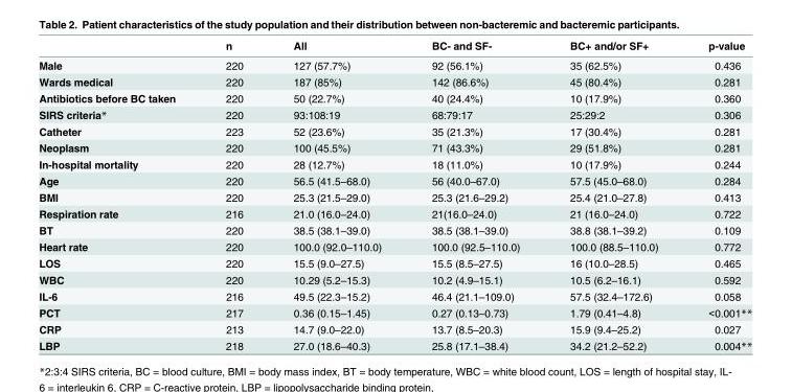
<table><thead><tr><td></td><td>n</td><td>All</td><td>BC- and SF-</td><td>BC+ and/or SF+</td><td>p-value</td></tr></thead><tbody><tr><td>Male</td><td>220</td><td>127 (57.7%)</td><td>92 (56.1%)</td><td>35 (62.5%)</td><td>0.436</td></tr><tr><td>Wards medical</td><td>220</td><td>187 (85%)</td><td>142 (86.6%)</td><td>45 (80.4%)</td><td>0.281</td></tr><tr><td>Antibiotics before BC taken</td><td>220</td><td>50 (22.7%)</td><td>40 (24.4%)</td><td>10 (17.9%)</td><td>0.360</td></tr><tr><td>SIRS criteria*</td><td>220</td><td>93:108:19</td><td>68:79:17</td><td>25:29:2</td><td>0.306</td></tr><tr><td>Catheter</td><td>223</td><td>52 (23.6%)</td><td>35 (21.3%)</td><td>17 (30.4%)</td><td>0.281</td></tr><tr><td>Neoplasm</td><td>220</td><td>100 (45.5%)</td><td>71 (43.3%)</td><td>29 (51.8%)</td><td>0.281</td></tr><tr><td>In-hospital mortality</td><td>220</td><td>28 (12.7%)</td><td>18 (11.0%)</td><td>10 (17.9%)</td><td>0.244</td></tr><tr><td>Age</td><td>220</td><td>56.5 (41.5–68.0)</td><td>56 (40.0–67.0)</td><td>57.5 (45.0–68.0)</td><td>0.284</td></tr><tr><td>BMI</td><td>220</td><td>25.3 (21.5–29.0)</td><td>25.3 (21.6–29.2)</td><td>25.4 (21.0–27.8)</td><td>0.413</td></tr><tr><td>Respiration rate</td><td>216</td><td>21.0 (16.0–24.0)</td><td>21(16.0–24.0)</td><td>21 (16.0–24.0)</td><td>0.722</td></tr><tr><td>BT</td><td>220</td><td>38.5 (38.1–39.0)</td><td>38.5 (38.1–39.0)</td><td>38.8 (38.1–39.2)</td><td>0.109</td></tr><tr><td>Heart rate</td><td>220</td><td>100.0 (92.0–110.0)</td><td>100.0 (92.5–110.0)</td><td>100.0 (88.5–110.0)</td><td>0.772</td></tr><tr><td>LOS</td><td>220</td><td>15.5 (9.0–27.5)</td><td>15.5 (8.5–27.5)</td><td>16 (10.0–28.5)</td><td>0.465</td></tr><tr><td>WBC</td><td>220</td><td>10.29 (5.2–15.3)</td><td>10.2 (4.9–15.1)</td><td>10.5 (6.2–16.1)</td><td>0.592</td></tr><tr><td>IL-6</td><td>216</td><td>49.5 (22.3–15.2)</td><td>46.4 (21.1–109.0)</td><td>57.5 (32.4–172.6)</td><td>0.058</td></tr><tr><td>PCT</td><td>217</td><td>0.36 (0.15–1.45)</td><td>0.27 (0.13–0.73)</td><td>1.79 (0.41–4.8)</td><td>&lt;0.001**</td></tr><tr><td>CRP</td><td>213</td><td>14.7 (9.0–22.0)</td><td>13.7 (8.5–20.3)</td><td>15.9 (9.4–25.2)</td><td>0.027</td></tr><tr><td>LBP</td><td>218</td><td>27.0 (18.6–40.3)</td><td>25.8 (17.1–38.4)</td><td>34.2 (21.2–52.2)</td><td>0.004**</td></tr></tbody></table>